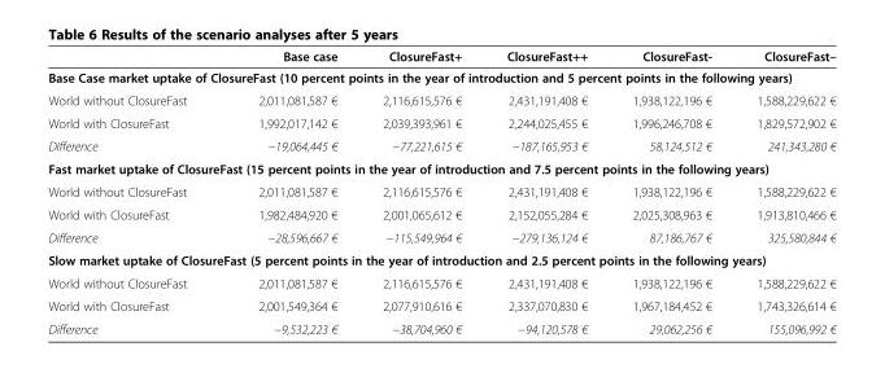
<table><thead><tr><td></td><td>Base case</td><td>ClosureFast+</td><td>ClosureFast++</td><td>ClosureFast-</td><td>ClosureFast–</td></tr></thead><tbody><tr><td colspan="6">Base Case market uptake of ClosureFast (10 percent points in the year of introduction and 5 percent points in the following years)</td></tr><tr><td>World without ClosureFast</td><td>2,011,081,587 €</td><td>2,116,615,576 €</td><td>2,431,191,408 €</td><td>1,938,122,196 €</td><td>1,588,229,622 €</td></tr><tr><td>World with ClosureFast</td><td>1,992,017,142 €</td><td>2,039,393,961 €</td><td>2,244,025,455 €</td><td>1,996,246,708 €</td><td>1,829,572,902 €</td></tr><tr><td>Difference</td><td>−19,064,445 €</td><td>−77,221,615 €</td><td>−187,165,953 €</td><td>58,124,512 €</td><td>241,343,280 €</td></tr><tr><td colspan="6">Fast market uptake of ClosureFast (15 percent points in the year of introduction and 7.5 percent points in the following years)</td></tr><tr><td>World without ClosureFast</td><td>2,011,081,587 €</td><td>2,116,615,576 €</td><td>2,431,191,408 €</td><td>1,938,122,196 €</td><td>1,588,229,622 €</td></tr><tr><td>World with ClosureFast</td><td>1,982,484,920 €</td><td>2,001,065,612 €</td><td>2,152,055,284 €</td><td>2,025,308,963 €</td><td>1,913,810,466 €</td></tr><tr><td>Difference</td><td>−28,596,667 €</td><td>−115,549,964 €</td><td>−279,136,124 €</td><td>87,186,767 €</td><td>325,580,844 €</td></tr><tr><td colspan="6">Slow market uptake of ClosureFast (5 percent points in the year of introduction and 2.5 percent points in the following years)</td></tr><tr><td>World without ClosureFast</td><td>2,011,081,587 €</td><td>2,116,615,576 €</td><td>2,431,191,408 €</td><td>1,938,122,196 €</td><td>1,588,229,622 €</td></tr><tr><td>World with ClosureFast</td><td>2,001,549,364 €</td><td>2,077,910,616 €</td><td>2,337,070,830 €</td><td>1,967,184,452 €</td><td>1,743,326,614 €</td></tr><tr><td>Difference</td><td>−9,532,223 €</td><td>−38,704,960 €</td><td>−94,120,578 €</td><td>29,062,256 €</td><td>155,096,992 €</td></tr></tbody></table>